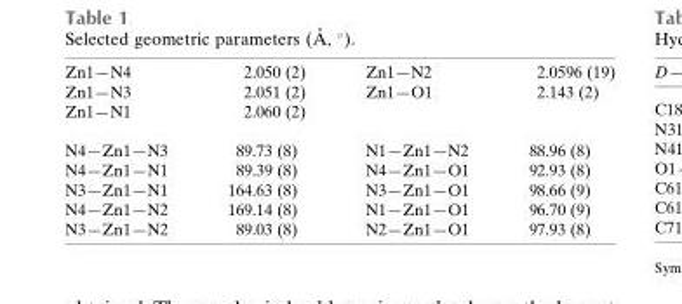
<table><tbody><tr><td>Zn1—N4</td><td>2.050 (2)</td><td>Zn1—N2</td><td>2.0596 (19)</td></tr><tr><td>Zn1—N3</td><td>2.051 (2)</td><td>Zn1—O1</td><td>2.143 (2)</td></tr><tr><td>Zn1—N1</td><td>2.060 (2)</td><td></td><td></td></tr><tr><td>N4—Zn1—N3</td><td>89.73 (8)</td><td>N1—Zn1—N2</td><td>88.96 (8)</td></tr><tr><td>N4—Zn1—N1</td><td>89.39 (8)</td><td>N4—Zn1—O1</td><td>92.93 (8)</td></tr><tr><td>N3—Zn1—N1</td><td>164.63 (8)</td><td>N3—Zn1—O1</td><td>98.66 (9)</td></tr><tr><td>N4—Zn1—N2</td><td>169.14 (8)</td><td>N1—Zn1—O1</td><td>96.70 (9)</td></tr><tr><td>N3—Zn1—N2</td><td>89.03 (8)</td><td>N2—Zn1—O1</td><td>97.93 (8)</td></tr></tbody></table>